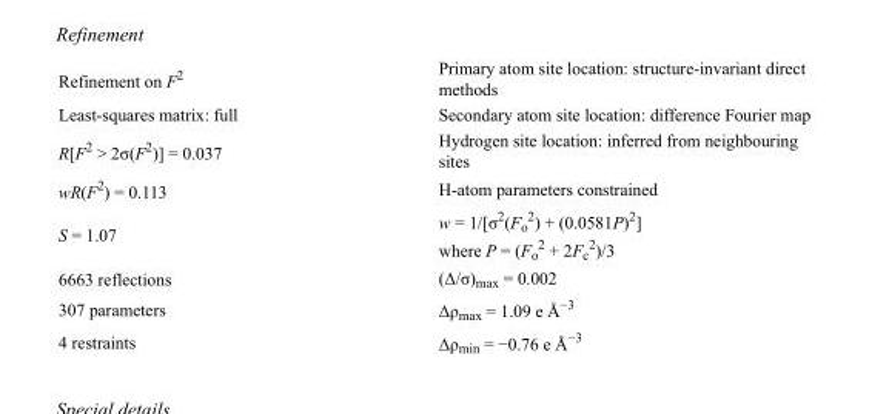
<table><tbody><tr><td>Refinement on F<sup>2</sup></td><td>Primary atom site location: structure-invariant direct methods</td></tr><tr><td>Least-squares matrix: full</td><td>Secondary atom site location: difference Fourier map</td></tr><tr><td>R[F<sup>2</sup> &gt; 2σ(F<sup>2</sup>)] = 0.037</td><td>Hydrogen site location: inferred from neighbouring sites</td></tr><tr><td>wR(F<sup>2</sup>) = 0.113</td><td>H-atom parameters constrained</td></tr><tr><td>S = 1.07</td><td>w = 1/[σ<sup>2</sup>(F<sub>o</sub> <sup>2</sup>) + (0.0581P)<sup>2</sup>] where P = (F<sub>o</sub> <sup>2</sup> + 2F<sub>c</sub> <sup>2</sup>)/3</td></tr><tr><td>6663 reflections</td><td>(Δ/σ)<sub>max</sub> = 0.002</td></tr><tr><td>307 parameters</td><td>Δρ<sub>max</sub> = 1.09 e Å<sup>−3</sup></td></tr><tr><td>4 restraints</td><td>Δρ<sub>min</sub> = −0.76 e Å<sup>−3</sup></td></tr></tbody></table>